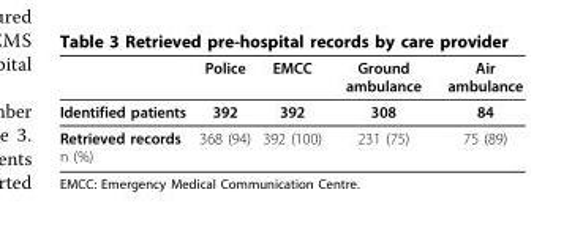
<table><thead><tr><td></td><td>Police</td><td>EMCC</td><td>Ground ambulance</td><td>Air ambulance</td></tr></thead><tbody><tr><td>Identified patients</td><td>392</td><td>392</td><td>308</td><td>84</td></tr><tr><td>Retrieved records n (%)</td><td>368 (94)</td><td>392 (100)</td><td>231 (75)</td><td>75 (89)</td></tr></tbody></table>